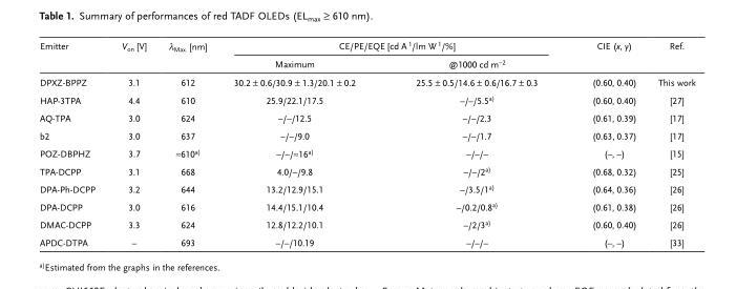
<table><thead><tr><td rowspan="2">Emitter</td><td rowspan="2">V<sub>on</sub> [V]</td><td rowspan="2">λ<sub>Max.</sub> [nm]</td><td colspan="2">CE/PE/EQE [cd A<sup>‒1</sup>/lm W<sup>‒1</sup>/%]</td><td rowspan="2">CIE (x, y)</td><td rowspan="2">Ref.</td></tr><tr><td>Maximum</td><td>@1000 cd m<sup>−2</sup></td></tr></thead><tbody><tr><td>DPXZ-BPPZ</td><td>3.1</td><td>612</td><td>30.2 ± 0.6/30.9 ± 1.3/20.1 ± 0.2</td><td>25.5 ± 0.5/14.6 ± 0.6/16.7 ± 0.3</td><td>(0.60, 0.40)</td><td>This work</td></tr><tr><td>HAP-3TPA</td><td>4.4</td><td>610</td><td>25.9/22.1/17.5</td><td>–/–/5.5a)</td><td>(0.60, 0.40)</td><td>[27]</td></tr><tr><td>AQ-TPA</td><td>3.0</td><td>624</td><td>–/–/12.5</td><td>–/–/2.3</td><td>(0.61, 0.39)</td><td>[17]</td></tr><tr><td>b2</td><td>3.0</td><td>637</td><td>–/–/9.0</td><td>–/–/1.7</td><td>(0.63, 0.37)</td><td>[17]</td></tr><tr><td>POZ-DBPHZ</td><td>3.7</td><td>≈610a)</td><td>–/–/≈16a)</td><td>–/–/–</td><td>(–, –)</td><td>[15]</td></tr><tr><td>TPA-DCPP</td><td>3.1</td><td>668</td><td>4.0/–/9.8</td><td>–/–/2a)</td><td>(0.68, 0.32)</td><td>[25]</td></tr><tr><td>DPA-Ph-DCPP</td><td>3.2</td><td>644</td><td>13.2/12.9/15.1</td><td>–/3.5/1a)</td><td>(0.64, 0.36)</td><td>[26]</td></tr><tr><td>DPA-DCPP</td><td>3.0</td><td>616</td><td>14.4/15.1/10.4</td><td>–/0.2/0.8a)</td><td>(0.61, 0.38)</td><td>[26]</td></tr><tr><td>DMAC-DCPP</td><td>3.3</td><td>624</td><td>12.8/12.2/10.1</td><td>–/2/3a)</td><td>(0.60, 0.40)</td><td>[26]</td></tr><tr><td>APDC-DTPA</td><td>–</td><td>693</td><td>–/–/10.19</td><td>–/–/–</td><td>(–, –)</td><td>[33]</td></tr></tbody></table>